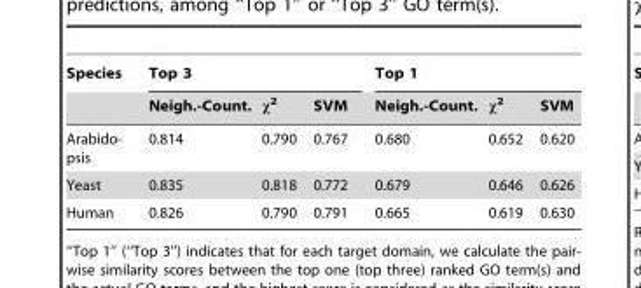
<table><thead><tr><td rowspan="2">Species</td><td colspan="3">Top 3</td><td colspan="3">Top 1</td></tr><tr><td>Neigh.-Count.</td><td>χ<sup>2</sup></td><td>SVM</td><td>Neigh.-Count.</td><td>χ<sup>2</sup></td><td>SVM</td></tr></thead><tbody><tr><td>Arabido- psis</td><td>0.814</td><td>0.790</td><td>0.767</td><td>0.680</td><td>0.652</td><td>0.620</td></tr><tr><td>Yeast</td><td>0.835</td><td>0.818</td><td>0.772</td><td>0.679</td><td>0.646</td><td>0.626</td></tr><tr><td>Human</td><td>0.826</td><td>0.790</td><td>0.791</td><td>0.665</td><td>0.619</td><td>0.630</td></tr></tbody></table>